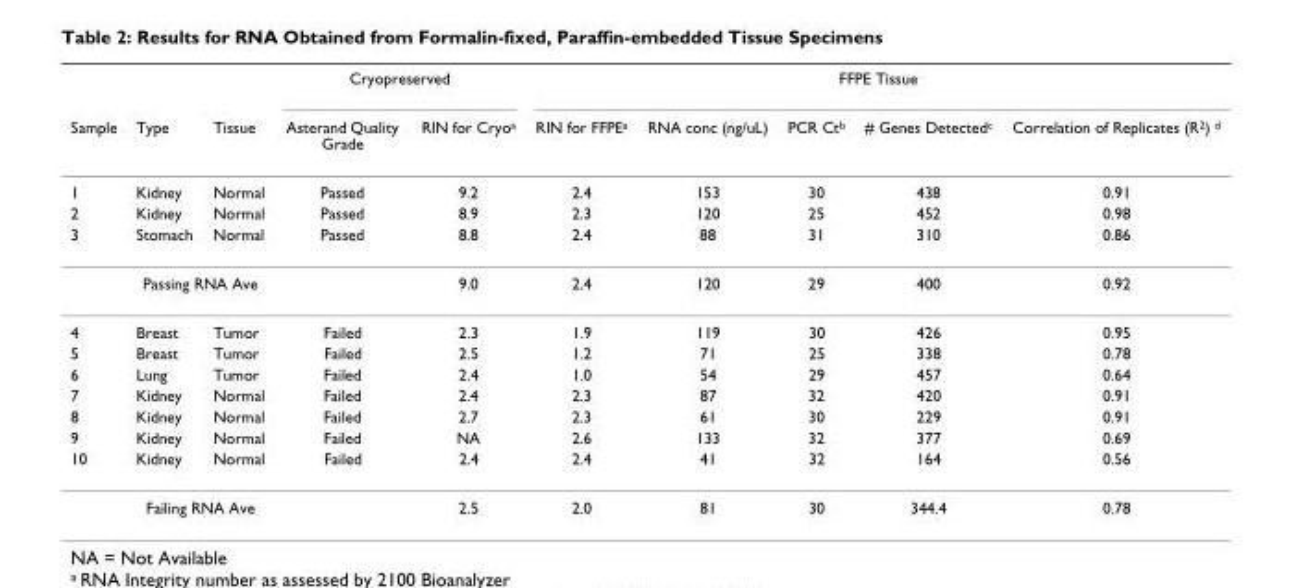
<table><thead><tr><td rowspan="2">Sample</td><td rowspan="2">Type</td><td rowspan="2">Tissue</td><td colspan="2">Cryopreserved</td><td colspan="5">FFPE Tissue</td></tr><tr><td>Asterand Quality Grade</td><td>RIN for Cryoa</td><td>RIN for FFPEa</td><td>RNA conc (ng/uL)</td><td>PCR Ctb</td><td># Genes Detectedc</td><td>Correlation of Replicates (R2) d</td></tr></thead><tbody><tr><td>1</td><td>Kidney</td><td>Normal</td><td>Passed</td><td>9.2</td><td>2.4</td><td>153</td><td>30</td><td>438</td><td>0.91</td></tr><tr><td>2</td><td>Kidney</td><td>Normal</td><td>Passed</td><td>8.9</td><td>2.3</td><td>120</td><td>25</td><td>452</td><td>0.98</td></tr><tr><td rowspan="2">3</td><td>Stomach</td><td>Normal</td><td>Passed</td><td>8.8</td><td>2.4</td><td>88</td><td>31</td><td>310</td><td>0.86</td></tr><tr><td colspan="2">Passing RNA Ave</td><td></td><td>9.0</td><td>2.4</td><td>120</td><td>29</td><td>400</td><td>0.92</td></tr><tr><td>4</td><td>Breast</td><td>Tumor</td><td>Failed</td><td>2.3</td><td>1.9</td><td>119</td><td>30</td><td>426</td><td>0.95</td></tr><tr><td>5</td><td>Breast</td><td>Tumor</td><td>Failed</td><td>2.5</td><td>1.2</td><td>71</td><td>25</td><td>338</td><td>0.78</td></tr><tr><td>6</td><td>Lung</td><td>Tumor</td><td>Failed</td><td>2.4</td><td>1.0</td><td>54</td><td>29</td><td>457</td><td>0.64</td></tr><tr><td>7</td><td>Kidney</td><td>Normal</td><td>Failed</td><td>2.4</td><td>2.3</td><td>87</td><td>32</td><td>420</td><td>0.91</td></tr><tr><td>8</td><td>Kidney</td><td>Normal</td><td>Failed</td><td>2.7</td><td>2.3</td><td>61</td><td>30</td><td>229</td><td>0.91</td></tr><tr><td>9</td><td>Kidney</td><td>Normal</td><td>Failed</td><td>NA</td><td>2.6</td><td>133</td><td>32</td><td>377</td><td>0.69</td></tr><tr><td rowspan="2">10</td><td>Kidney</td><td>Normal</td><td>Failed</td><td>2.4</td><td>2.4</td><td>41</td><td>32</td><td>164</td><td>0.56</td></tr><tr><td colspan="2">Failing RNA Ave</td><td></td><td>2.5</td><td>2.0</td><td>81</td><td>30</td><td>344.4</td><td>0.78</td></tr></tbody></table>